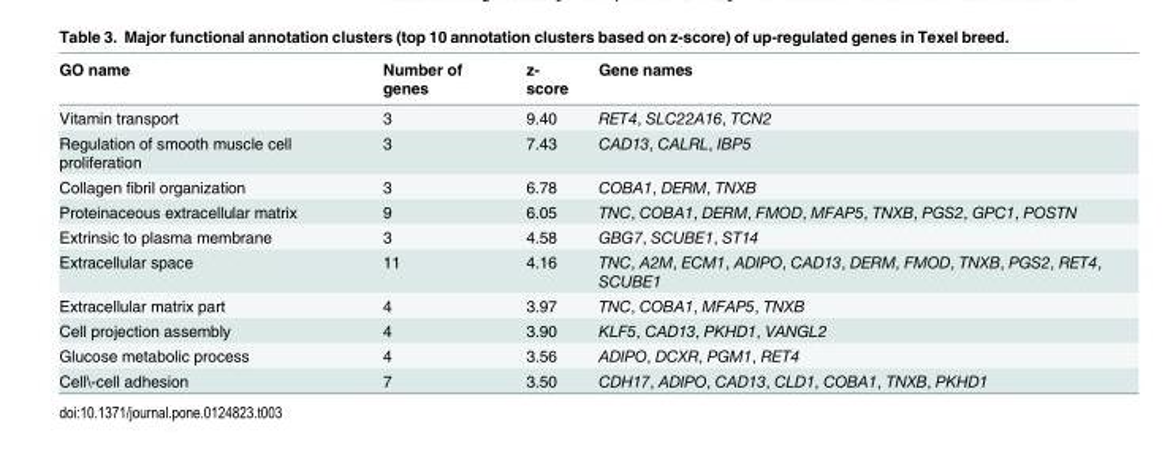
<table><thead><tr><td>GO name</td><td>Number of genes</td><td>z- score</td><td>Gene names</td></tr></thead><tbody><tr><td>Vitamin transport</td><td>3</td><td>9.40</td><td>RET4, SLC22A16, TCN2</td></tr><tr><td>Regulation of smooth muscle cell proliferation</td><td>3</td><td>7.43</td><td>CAD13, CALRL, IBP5</td></tr><tr><td>Collagen fibril organization</td><td>3</td><td>6.78</td><td>COBA1, DERM, TNXB</td></tr><tr><td>Proteinaceous extracellular matrix</td><td>9</td><td>6.05</td><td>TNC, COBA1, DERM, FMOD, MFAP5, TNXB, PGS2, GPC1, POSTN</td></tr><tr><td>Extrinsic to plasma membrane</td><td>3</td><td>4.58</td><td>GBG7, SCUBE1, ST14</td></tr><tr><td>Extracellular space</td><td>11</td><td>4.16</td><td>TNC, A2M, ECM1, ADIPO, CAD13, DERM, FMOD, TNXB, PGS2, RET4, SCUBE1</td></tr><tr><td>Extracellular matrix part</td><td>4</td><td>3.97</td><td>TNC, COBA1, MFAP5, TNXB</td></tr><tr><td>Cell projection assembly</td><td>4</td><td>3.90</td><td>KLF5, CAD13, PKHD1, VANGL2</td></tr><tr><td>Glucose metabolic process</td><td>4</td><td>3.56</td><td>ADIPO, DCXR, PGM1, RET4</td></tr><tr><td>Cell\-cell adhesion</td><td>7</td><td>3.50</td><td>CDH17, ADIPO, CAD13, CLD1, COBA1, TNXB, PKHD1</td></tr></tbody></table>